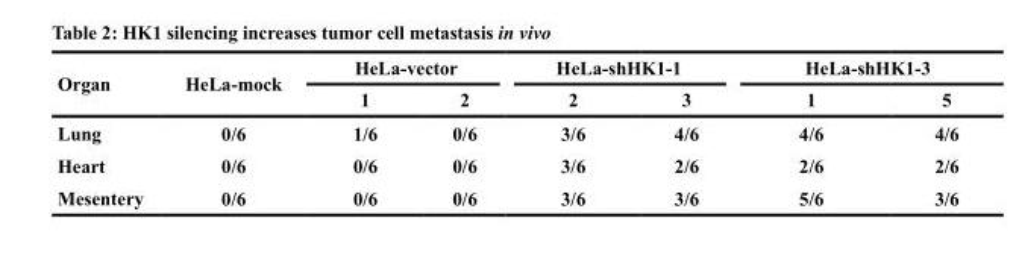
<table><thead><tr><td rowspan="2">Organ</td><td rowspan="2">HeLa-mock</td><td colspan="2">HeLa-vector</td><td colspan="2">HeLa-shHK1-1</td><td colspan="2">HeLa-shHK1-3</td></tr><tr><td>1</td><td>2</td><td>2</td><td>3</td><td>1</td><td>5</td></tr></thead><tbody><tr><td>Lung</td><td>0/6</td><td>1/6</td><td>0/6</td><td>3/6</td><td>4/6</td><td>4/6</td><td>4/6</td></tr><tr><td>Heart</td><td>0/6</td><td>0/6</td><td>0/6</td><td>3/6</td><td>2/6</td><td>2/6</td><td>2/6</td></tr><tr><td>Mesentery</td><td>0/6</td><td>0/6</td><td>0/6</td><td>3/6</td><td>3/6</td><td>5/6</td><td>3/6</td></tr></tbody></table>